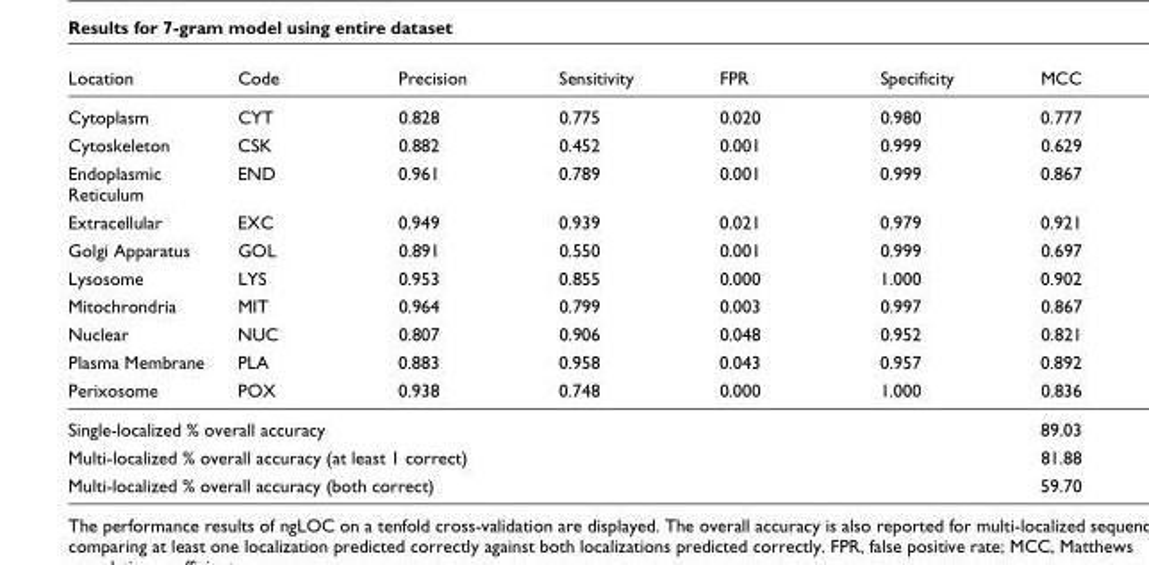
<table><thead><tr><td>Location</td><td>Code</td><td>Precision</td><td>Sensitivity</td><td>FPR</td><td>Specificity</td><td>MCC</td></tr></thead><tbody><tr><td>Cytoplasm</td><td>CYT</td><td>0.828</td><td>0.775</td><td>0.020</td><td>0.980</td><td>0.777</td></tr><tr><td>Cytoskeleton</td><td>CSK</td><td>0.882</td><td>0.452</td><td>0.001</td><td>0.999</td><td>0.629</td></tr><tr><td>Endoplasmic Reticulum</td><td>END</td><td>0.961</td><td>0.789</td><td>0.001</td><td>0.999</td><td>0.867</td></tr><tr><td>Extracellular</td><td>EXC</td><td>0.949</td><td>0.939</td><td>0.021</td><td>0.979</td><td>0.921</td></tr><tr><td>Golgi Apparatus</td><td>GOL</td><td>0.891</td><td>0.550</td><td>0.001</td><td>0.999</td><td>0.697</td></tr><tr><td>Lysosome</td><td>LYS</td><td>0.953</td><td>0.855</td><td>0.000</td><td>1.000</td><td>0.902</td></tr><tr><td>Mitochrondria</td><td>MIT</td><td>0.964</td><td>0.799</td><td>0.003</td><td>0.997</td><td>0.867</td></tr><tr><td>Nuclear</td><td>NUC</td><td>0.807</td><td>0.906</td><td>0.048</td><td>0.952</td><td>0.821</td></tr><tr><td>Plasma Membrane</td><td>PLA</td><td>0.883</td><td>0.958</td><td>0.043</td><td>0.957</td><td>0.892</td></tr><tr><td>Perixosome</td><td>POX</td><td>0.938</td><td>0.748</td><td>0.000</td><td>1.000</td><td>0.836</td></tr><tr><td colspan="6">Single-localized % overall accuracy</td><td>89.03</td></tr><tr><td colspan="6">Multi-localized % overall accuracy (at least 1 correct)</td><td>81.88</td></tr><tr><td colspan="6">Multi-localized % overall accuracy (both correct)</td><td>59.70</td></tr></tbody></table>